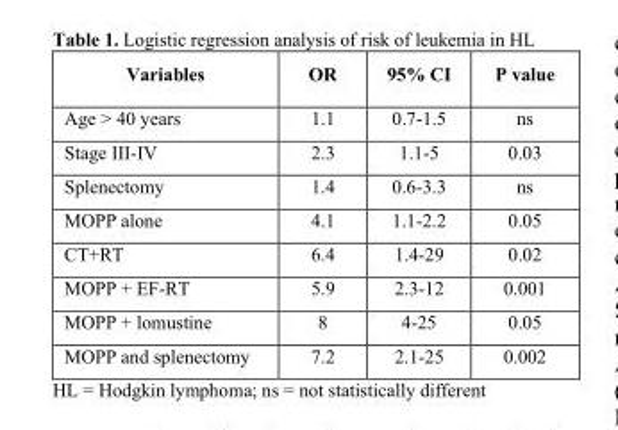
<table><thead><tr><td>Variables</td><td>OR</td><td>95% CI</td><td>P value</td></tr></thead><tbody><tr><td>Age &gt; 40 years</td><td>1.1</td><td>0.7-1.5</td><td>ns</td></tr><tr><td>Stage III-IV</td><td>2.3</td><td>1.1-5</td><td>0.03</td></tr><tr><td>Splenectomy</td><td>1.4</td><td>0.6-3.3</td><td>ns</td></tr><tr><td>MOPP alone</td><td>4.1</td><td>1.1-2.2</td><td>0.05</td></tr><tr><td>CT+RT</td><td>6.4</td><td>1.4-29</td><td>0.02</td></tr><tr><td>MOPP + EF-RT</td><td>5.9</td><td>2.3-12</td><td>0.001</td></tr><tr><td>MOPP + lomustine</td><td>8</td><td>4-25</td><td>0.05</td></tr><tr><td>MOPP and splenectomy</td><td>7.2</td><td>2.1-25</td><td>0.002</td></tr></tbody></table>